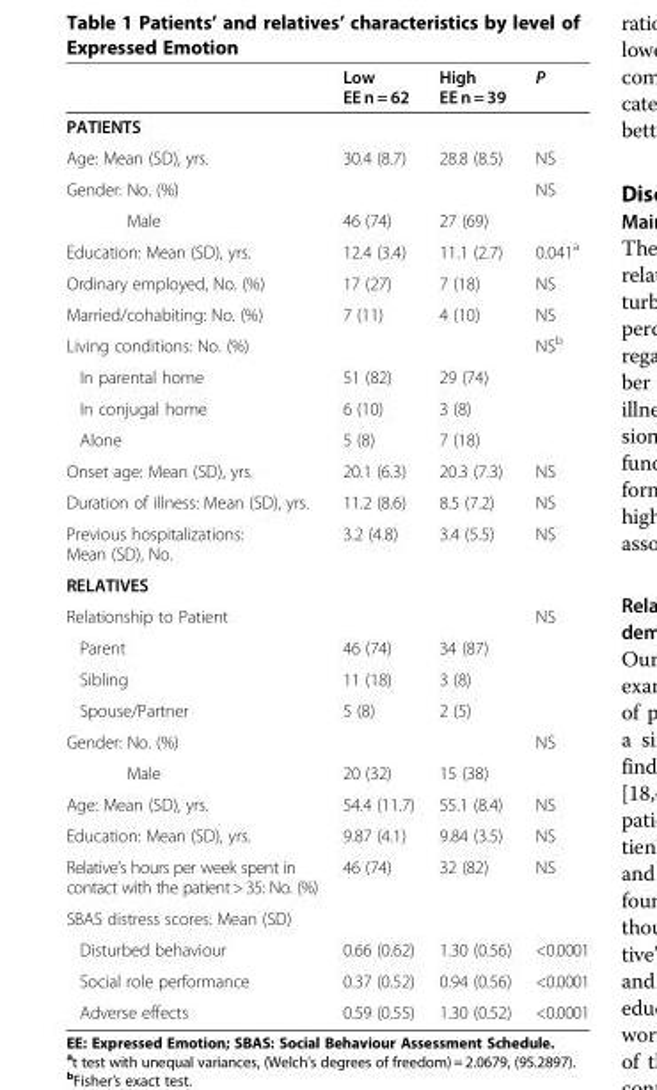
<table><thead><tr><td></td><td>Low EE n = 62</td><td>High EE n = 39</td><td>P</td></tr></thead><tbody><tr><td colspan="4">PATIENTS</td></tr><tr><td>Age: Mean (SD), yrs.</td><td>30.4 (8.7)</td><td>28.8 (8.5)</td><td>NS</td></tr><tr><td>Gender: No. (%)</td><td></td><td></td><td>NS</td></tr><tr><td>Male</td><td>46 (74)</td><td>27 (69)</td><td></td></tr><tr><td>Education: Mean (SD), yrs.</td><td>12.4 (3.4)</td><td>11.1 (2.7)</td><td>0.041<sup>a</sup></td></tr><tr><td>Ordinary employed, No. (%)</td><td>17 (27)</td><td>7 (18)</td><td>NS</td></tr><tr><td>Married/cohabiting: No. (%)</td><td>7 (11)</td><td>4 (10)</td><td>NS</td></tr><tr><td>Living conditions: No. (%)</td><td></td><td></td><td>NS<sup>b</sup></td></tr><tr><td>In parental home</td><td>51 (82)</td><td>29 (74)</td><td></td></tr><tr><td>In conjugal home</td><td>6 (10)</td><td>3 (8)</td><td></td></tr><tr><td>Alone</td><td>5 (8)</td><td>7 (18)</td><td></td></tr><tr><td>Onset age: Mean (SD), yrs.</td><td>20.1 (6.3)</td><td>20.3 (7.3)</td><td>NS</td></tr><tr><td>Duration of illness: Mean (SD), yrs.</td><td>11.2 (8.6)</td><td>8.5 (7.2)</td><td>NS</td></tr><tr><td>Previous hospitalizations: Mean (SD), No.</td><td>3.2 (4.8)</td><td>3.4 (5.5)</td><td>NS</td></tr><tr><td colspan="4">RELATIVES</td></tr><tr><td>Relationship to Patient</td><td></td><td></td><td>NS</td></tr><tr><td>Parent</td><td>46 (74)</td><td>34 (87)</td><td></td></tr><tr><td>Sibling</td><td>11 (18)</td><td>3 (8)</td><td></td></tr><tr><td>Spouse/Partner</td><td>5 (8)</td><td>2 (5)</td><td></td></tr><tr><td>Gender: No. (%)</td><td></td><td></td><td>NS</td></tr><tr><td>Male</td><td>20 (32)</td><td>15 (38)</td><td></td></tr><tr><td>Age: Mean (SD), yrs.</td><td>54.4 (11.7)</td><td>55.1 (8.4)</td><td>NS</td></tr><tr><td>Education: Mean (SD), yrs.</td><td>9.87 (4.1)</td><td>9.84 (3.5)</td><td>NS</td></tr><tr><td>Relative’s hours per week spent in contact with the patient&gt;35: No. (%)</td><td>46 (74)</td><td>32 (82)</td><td>NS</td></tr><tr><td colspan="4">SBAS distress scores: Mean (SD)</td></tr><tr><td>Disturbed behaviour</td><td>0.66 (0.62)</td><td>1.30 (0.56)</td><td>&lt;0.0001</td></tr><tr><td>Social role performance</td><td>0.37 (0.52)</td><td>0.94 (0.56)</td><td>&lt;0.0001</td></tr><tr><td>Adverse effects</td><td>0.59 (0.55)</td><td>1.30 (0.52)</td><td>&lt;0.0001</td></tr></tbody></table>